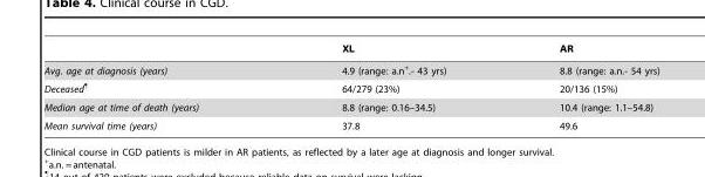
<table><thead><tr><td></td><td>XL</td><td>AR</td></tr></thead><tbody><tr><td>Avg. age at diagnosis (years)</td><td>4.9 (range: a.n+.- 43 yrs)</td><td>8.8 (range: a.n.- 54 yrs)</td></tr><tr><td>Deceased¶</td><td>64/279 (23%)</td><td>20/136 (15%)</td></tr><tr><td>Median age at time of death (years)</td><td>8.8 (range: 0.16–34.5)</td><td>10.4 (range: 1.1–54.8)</td></tr><tr><td>Mean survival time (years)</td><td>37.8</td><td>49.6</td></tr></tbody></table>